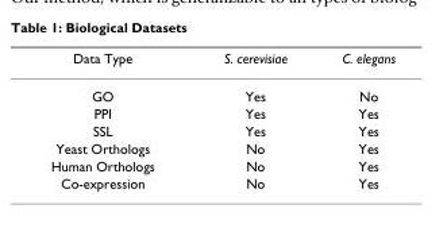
<table><thead><tr><td>Data Type</td><td>S. cerevisiae</td><td>C. elegans</td></tr></thead><tbody><tr><td>GO</td><td>Yes</td><td>No</td></tr><tr><td>PPI</td><td>Yes</td><td>Yes</td></tr><tr><td>SSL</td><td>Yes</td><td>Yes</td></tr><tr><td>Yeast Orthologs</td><td>No</td><td>Yes</td></tr><tr><td>Human Orthologs</td><td>No</td><td>Yes</td></tr><tr><td>Co-expression</td><td>No</td><td>Yes</td></tr></tbody></table>